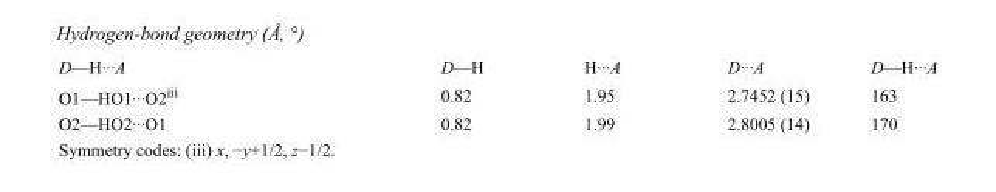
<table><tbody><tr><td>D—H···A</td><td>D—H</td><td>H···A</td><td>D···A</td><td>D—H···A</td></tr><tr><td>O1—HO1···O2<sup>iii</sup></td><td>0.82</td><td>1.95</td><td>2.7452 (15)</td><td>163</td></tr><tr><td>O2—HO2···O1</td><td>0.82</td><td>1.99</td><td>2.8005 (14)</td><td>170</td></tr></tbody></table>